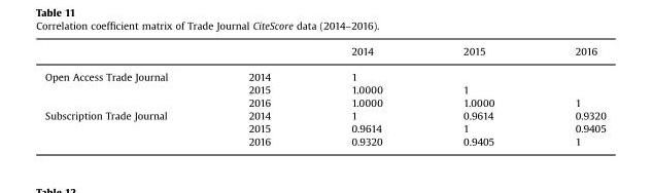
<table><thead><tr><td></td><td></td><td>2014</td><td>2015</td><td>2016</td></tr></thead><tbody><tr><td rowspan="3">Open Access Trade Journal</td><td>2014</td><td>1</td><td></td><td></td></tr><tr><td>2015</td><td>1.0000</td><td>1</td><td></td></tr><tr><td>2016</td><td>1.0000</td><td>1.0000</td><td>1</td></tr><tr><td rowspan="3">Subscription Trade Journal</td><td>2014</td><td>1</td><td>0.9614</td><td>0.9320</td></tr><tr><td>2015</td><td>0.9614</td><td>1</td><td>0.9405</td></tr><tr><td>2016</td><td>0.9320</td><td>0.9405</td><td>1</td></tr></tbody></table>